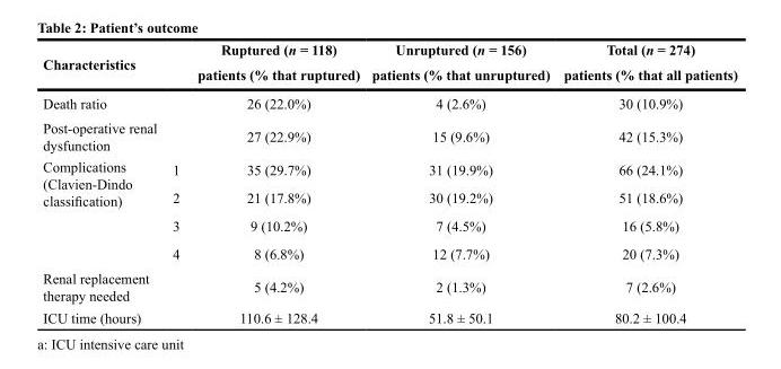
<table><thead><tr><td rowspan="2">Characteristics</td><td rowspan="2"></td><td rowspan="2">Ruptured (n = 118) patients (% that ruptured)</td><td rowspan="2">Unruptured (n = 156) patients (% that unruptured)</td><td rowspan="2">Total (n = 274) patients (% that all patients)</td></tr><tr></tr></thead><tbody><tr><td>Death ratio</td><td></td><td>26 (22.0%)</td><td>4 (2.6%)</td><td>30 (10.9%)</td></tr><tr><td>Post-operative renal dysfunction</td><td></td><td>27 (22.9%)</td><td>15 (9.6%)</td><td>42 (15.3%)</td></tr><tr><td rowspan="4">Complications (Clavien-Dindo classification)</td><td>1</td><td>35 (29.7%)</td><td>31 (19.9%)</td><td>66 (24.1%)</td></tr><tr><td>2</td><td>21 (17.8%)</td><td>30 (19.2%)</td><td>51 (18.6%)</td></tr><tr><td>3</td><td>9 (10.2%)</td><td>7 (4.5%)</td><td>16 (5.8%)</td></tr><tr><td>4</td><td>8 (6.8%)</td><td>12 (7.7%)</td><td>20 (7.3%)</td></tr><tr><td>Renal replacement therapy needed</td><td></td><td>5 (4.2%)</td><td>2 (1.3%)</td><td>7 (2.6%)</td></tr><tr><td>ICU time (hours)</td><td></td><td>110.6 ± 128.4</td><td>51.8 ± 50.1</td><td>80.2 ± 100.4</td></tr></tbody></table>